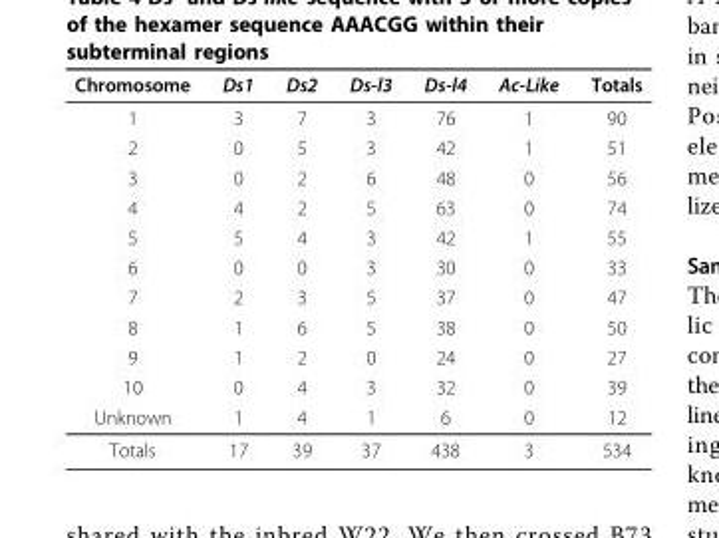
<table><thead><tr><td>Chromosome</td><td>Ds1</td><td>Ds2</td><td>Ds-l3</td><td>Ds-l4</td><td>Ac-Like</td><td>Totals</td></tr></thead><tbody><tr><td>1</td><td>3</td><td>7</td><td>3</td><td>76</td><td>1</td><td>90</td></tr><tr><td>2</td><td>0</td><td>5</td><td>3</td><td>42</td><td>1</td><td>51</td></tr><tr><td>3</td><td>0</td><td>2</td><td>6</td><td>48</td><td>0</td><td>56</td></tr><tr><td>4</td><td>4</td><td>2</td><td>5</td><td>63</td><td>0</td><td>74</td></tr><tr><td>5</td><td>5</td><td>4</td><td>3</td><td>42</td><td>1</td><td>55</td></tr><tr><td>6</td><td>0</td><td>0</td><td>3</td><td>30</td><td>0</td><td>33</td></tr><tr><td>7</td><td>2</td><td>3</td><td>5</td><td>37</td><td>0</td><td>47</td></tr><tr><td>8</td><td>1</td><td>6</td><td>5</td><td>38</td><td>0</td><td>50</td></tr><tr><td>9</td><td>1</td><td>2</td><td>0</td><td>24</td><td>0</td><td>27</td></tr><tr><td>10</td><td>0</td><td>4</td><td>3</td><td>32</td><td>0</td><td>39</td></tr><tr><td>Unknown</td><td>1</td><td>4</td><td>1</td><td>6</td><td>0</td><td>12</td></tr><tr><td>Totals</td><td>17</td><td>39</td><td>37</td><td>438</td><td>3</td><td>534</td></tr></tbody></table>